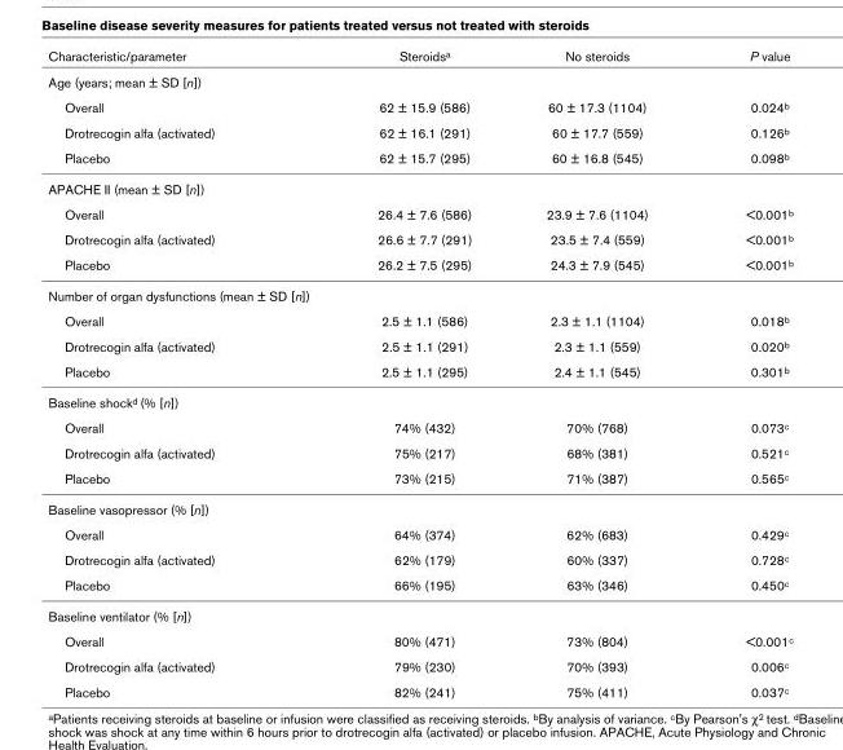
<table><thead><tr><td>Characteristic/parameter</td><td>Steroidsa</td><td>No steroids</td><td>P value</td></tr></thead><tbody><tr><td colspan="4">Age (years; mean ± SD [n])</td></tr><tr><td>Overall</td><td>62 ± 15.9 (586)</td><td>60 ± 17.3 (1104)</td><td>0.024b</td></tr><tr><td>Drotrecogin alfa (activated)</td><td>62 ± 16.1 (291)</td><td>60 ± 17.7 (559)</td><td>0.126b</td></tr><tr><td>Placebo</td><td>62 ± 15.7 (295)</td><td>60 ± 16.8 (545)</td><td>0.098b</td></tr><tr><td colspan="4">APACHE II (mean ± SD [n])</td></tr><tr><td>Overall</td><td>26.4 ± 7.6 (586)</td><td>23.9 ± 7.6 (1104)</td><td>&lt;0.001b</td></tr><tr><td>Drotrecogin alfa (activated)</td><td>26.6 ± 7.7 (291)</td><td>23.5 ± 7.4 (559)</td><td>&lt;0.001b</td></tr><tr><td>Placebo</td><td>26.2 ± 7.5 (295)</td><td>24.3 ± 7.9 (545)</td><td>&lt;0.001b</td></tr><tr><td colspan="4">Number of organ dysfunctions (mean ± SD [n])</td></tr><tr><td>Overall</td><td>2.5 ± 1.1 (586)</td><td>2.3 ± 1.1 (1104)</td><td>0.018b</td></tr><tr><td>Drotrecogin alfa (activated)</td><td>2.5 ± 1.1 (291)</td><td>2.3 ± 1.1 (559)</td><td>0.020b</td></tr><tr><td>Placebo</td><td>2.5 ± 1.1 (295)</td><td>2.4 ± 1.1 (545)</td><td>0.301b</td></tr><tr><td colspan="4">Baseline shockd (% [n])</td></tr><tr><td>Overall</td><td>74% (432)</td><td>70% (768)</td><td>0.073c</td></tr><tr><td>Drotrecogin alfa (activated)</td><td>75% (217)</td><td>68% (381)</td><td>0.521c</td></tr><tr><td>Placebo</td><td>73% (215)</td><td>71% (387)</td><td>0.565c</td></tr><tr><td colspan="4">Baseline vasopressor (% [n])</td></tr><tr><td>Overall</td><td>64% (374)</td><td>62% (683)</td><td>0.429c</td></tr><tr><td>Drotrecogin alfa (activated)</td><td>62% (179)</td><td>60% (337)</td><td>0.728c</td></tr><tr><td>Placebo</td><td>66% (195)</td><td>63% (346)</td><td>0.450c</td></tr><tr><td colspan="4">Baseline ventilator (% [n])</td></tr><tr><td>Overall</td><td>80% (471)</td><td>73% (804)</td><td>&lt;0.001c</td></tr><tr><td>Drotrecogin alfa (activated)</td><td>79% (230)</td><td>70% (393)</td><td>0.006c</td></tr><tr><td>Placebo</td><td>82% (241)</td><td>75% (411)</td><td>0.037c</td></tr></tbody></table>